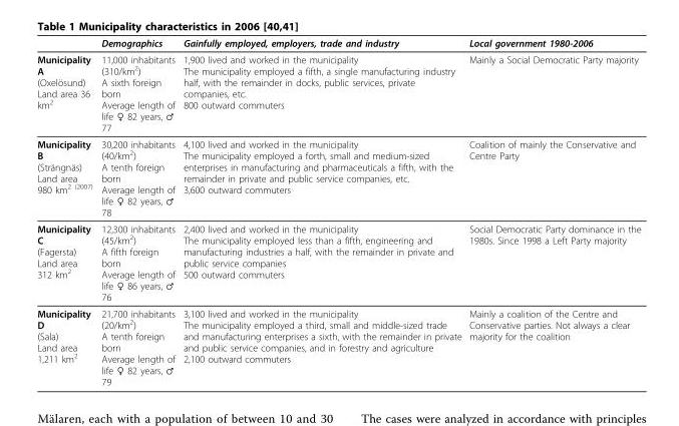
<table><thead><tr><td></td><td>Demographics</td><td>Gainfully employed, employers, trade and industry</td><td>Local government 1980-2006</td></tr></thead><tbody><tr><td>Municipality A (Oxelösund) Land area 36 km<sup>2</sup></td><td>11,000 inhabitants (310/km<sup>2</sup>) A sixth foreign born Average length of life ♀ 82 years, ♂ 77</td><td>1,900 lived and worked in the municipality The municipality employed a fifth, a single manufacturing industry half, with the remainder in docks, public services, private companies, etc. 800 outward commuters</td><td>Mainly a Social Democratic Party majority</td></tr><tr><td>Municipality B (Strängnäs) Land area 980 km<sup>2 (2007)</sup></td><td>30,200 inhabitants (40/km<sup>2</sup>) A tenth foreign born Average length of life ♀ 82 years, ♂ 78</td><td>4,100 lived and worked in the municipality The municipality employed a forth, small and medium-sized enterprises in manufacturing and pharmaceuticals a fifth, with the remainder in private and public service companies, etc. 3,600 outward commuters</td><td>Coalition of mainly the Conservative and Centre Party</td></tr><tr><td>Municipality C (Fagersta) Land area 312 km<sup>2</sup></td><td>12,300 inhabitants (45/km<sup>2</sup>) A fifth foreign born Average length of life ♀ 86 years, ♂ 76</td><td>2,400 lived and worked in the municipality The municipality employed less than a fifth, engineering and manufacturing industries a half, with the remainder in private and public service companies 500 outward commuters</td><td>Social Democratic Party dominance in the 1980s. Since 1998 a Left Party majority</td></tr><tr><td>Municipality D (Sala) Land area 1,211 km<sup>2</sup></td><td>21,700 inhabitants (20/km<sup>2</sup>) A tenth foreign born Average length of life ♀ 82 years, ♂ 79</td><td>3,100 lived and worked in the municipality The municipality employed a third, small and middle-sized trade and manufacturing enterprises a sixth, with the remainder in private and public service companies, and in forestry and agriculture 2,100 outward commuters</td><td>Mainly a coalition of the Centre and Conservative parties. Not always a clear majority for the coalition</td></tr></tbody></table>